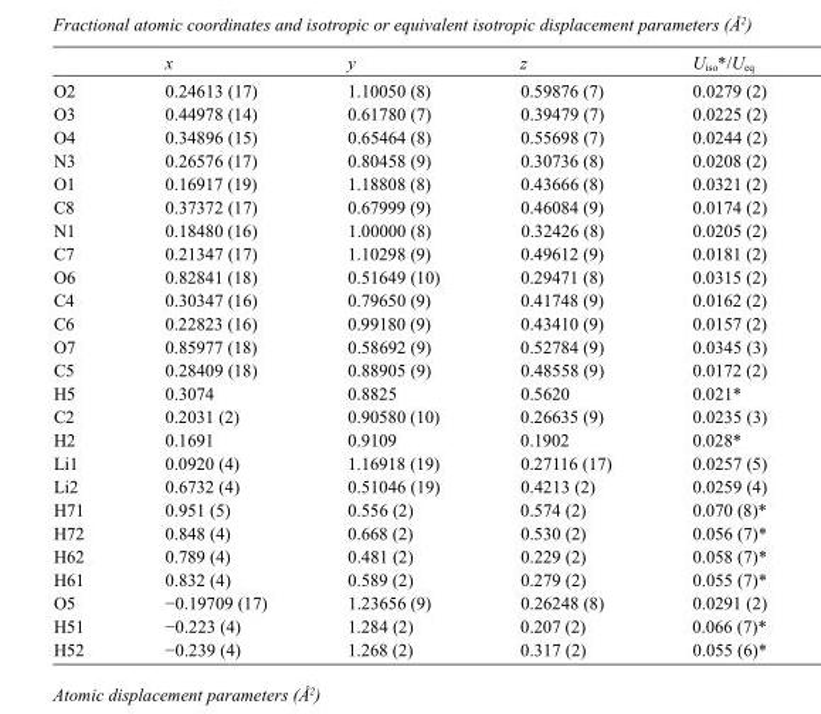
<table><thead><tr><td></td><td>x</td><td>y</td><td>z</td><td>U<sub>iso</sub>*/U<sub>eq</sub></td></tr></thead><tbody><tr><td>O2</td><td>0.24613 (17)</td><td>1.10050 (8)</td><td>0.59876 (7)</td><td>0.0279 (2)</td></tr><tr><td>O3</td><td>0.44978 (14)</td><td>0.61780 (7)</td><td>0.39479 (7)</td><td>0.0225 (2)</td></tr><tr><td>O4</td><td>0.34896 (15)</td><td>0.65464 (8)</td><td>0.55698 (7)</td><td>0.0244 (2)</td></tr><tr><td>N3</td><td>0.26576 (17)</td><td>0.80458 (9)</td><td>0.30736 (8)</td><td>0.0208 (2)</td></tr><tr><td>O1</td><td>0.16917 (19)</td><td>1.18808 (8)</td><td>0.43666 (8)</td><td>0.0321 (2)</td></tr><tr><td>C8</td><td>0.37372 (17)</td><td>0.67999 (9)</td><td>0.46084 (9)</td><td>0.0174 (2)</td></tr><tr><td>N1</td><td>0.18480 (16)</td><td>1.00000 (8)</td><td>0.32426 (8)</td><td>0.0205 (2)</td></tr><tr><td>C7</td><td>0.21347 (17)</td><td>1.10298 (9)</td><td>0.49612 (9)</td><td>0.0181 (2)</td></tr><tr><td>O6</td><td>0.82841 (18)</td><td>0.51649 (10)</td><td>0.29471 (8)</td><td>0.0315 (2)</td></tr><tr><td>C4</td><td>0.30347 (16)</td><td>0.79650 (9)</td><td>0.41748 (9)</td><td>0.0162 (2)</td></tr><tr><td>C6</td><td>0.22823 (16)</td><td>0.99180 (9)</td><td>0.43410 (9)</td><td>0.0157 (2)</td></tr><tr><td>O7</td><td>0.85977 (18)</td><td>0.58692 (9)</td><td>0.52784 (9)</td><td>0.0345 (3)</td></tr><tr><td>C5</td><td>0.28409 (18)</td><td>0.88905 (9)</td><td>0.48558 (9)</td><td>0.0172 (2)</td></tr><tr><td>H5</td><td>0.3074</td><td>0.8825</td><td>0.5620</td><td>0.021*</td></tr><tr><td>C2</td><td>0.2031 (2)</td><td>0.90580 (10)</td><td>0.26635 (9)</td><td>0.0235 (3)</td></tr><tr><td>H2</td><td>0.1691</td><td>0.9109</td><td>0.1902</td><td>0.028*</td></tr><tr><td>Li1</td><td>0.0920 (4)</td><td>1.16918 (19)</td><td>0.27116 (17)</td><td>0.0257 (5)</td></tr><tr><td>Li2</td><td>0.6732 (4)</td><td>0.51046 (19)</td><td>0.4213 (2)</td><td>0.0259 (4)</td></tr><tr><td>H71</td><td>0.951 (5)</td><td>0.556 (2)</td><td>0.574 (2)</td><td>0.070 (8)*</td></tr><tr><td>H72</td><td>0.848 (4)</td><td>0.668 (2)</td><td>0.530 (2)</td><td>0.056 (7)*</td></tr><tr><td>H62</td><td>0.789 (4)</td><td>0.481 (2)</td><td>0.229 (2)</td><td>0.058 (7)*</td></tr><tr><td>H61</td><td>0.832 (4)</td><td>0.589 (2)</td><td>0.279 (2)</td><td>0.055 (7)*</td></tr><tr><td>O5</td><td>−0.19709 (17)</td><td>1.23656 (9)</td><td>0.26248 (8)</td><td>0.0291 (2)</td></tr><tr><td>H51</td><td>−0.223 (4)</td><td>1.284 (2)</td><td>0.207 (2)</td><td>0.066 (7)*</td></tr><tr><td>H52</td><td>−0.239 (4)</td><td>1.268 (2)</td><td>0.317 (2)</td><td>0.055 (6)*</td></tr></tbody></table>